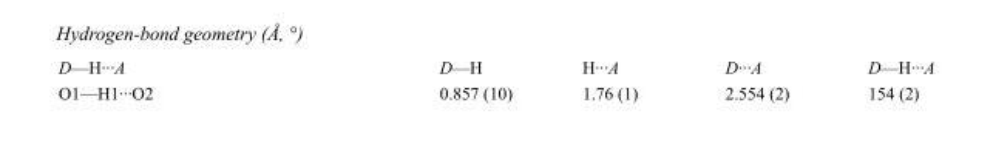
<table><tbody><tr><td>D—H···A</td><td>D—H</td><td>H···A</td><td>D···A</td><td>D—H···A</td></tr><tr><td>O1—H1···O2</td><td>0.857 (10)</td><td>1.76 (1)</td><td>2.554 (2)</td><td>154 (2)</td></tr></tbody></table>